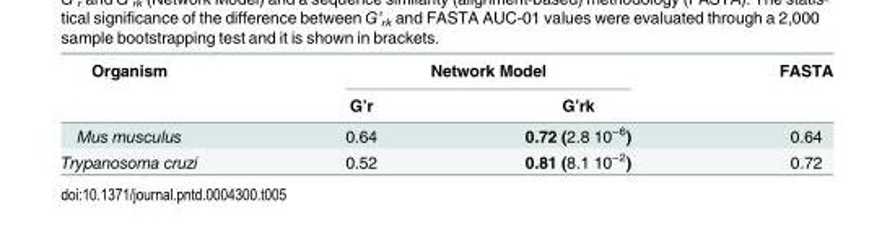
<table><thead><tr><td rowspan="2">Organism</td><td colspan="2">Network Model</td><td rowspan="2">FASTA</td></tr><tr><td>G’r</td><td>G’rk</td></tr></thead><tbody><tr><td>Mus musculus</td><td>0.64</td><td>0.72 (2.8 10<sup>−6</sup>)</td><td>0.64</td></tr><tr><td>Trypanosoma cruzi</td><td>0.52</td><td>0.81 (8.1 10<sup>−2</sup>)</td><td>0.72</td></tr></tbody></table>